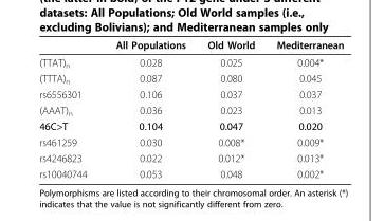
<table><thead><tr><td></td><td>All Populations</td><td>Old World</td><td>Mediterranean</td></tr></thead><tbody><tr><td>(TTAT)<sub>n</sub></td><td>0.028</td><td>0.025</td><td>0.004*</td></tr><tr><td>(TTTA)<sub>n</sub></td><td>0.087</td><td>0.080</td><td>0.045</td></tr><tr><td>rs6556301</td><td>0.106</td><td>0.037</td><td>0.037</td></tr><tr><td>(AAAT)<sub>n</sub></td><td>0.036</td><td>0.023</td><td>0.013</td></tr><tr><td>46C&gt;T</td><td>0.104</td><td>0.047</td><td>0.020</td></tr><tr><td>rs461259</td><td>0.030</td><td>0.008*</td><td>0.009*</td></tr><tr><td>rs4246823</td><td>0.022</td><td>0.012*</td><td>0.013*</td></tr><tr><td>rs10040744</td><td>0.053</td><td>0.048</td><td>0.002*</td></tr></tbody></table>